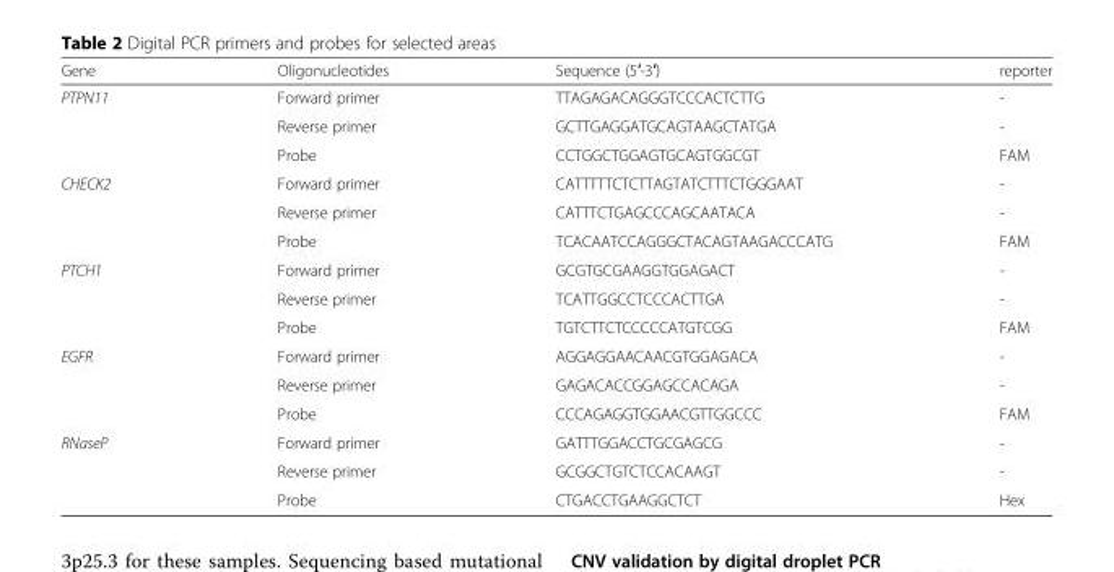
<table><thead><tr><td>Gene</td><td>Oligonucleotides</td><td>Sequence (5′-3′)</td><td>reporter</td></tr></thead><tbody><tr><td rowspan="3">PTPN11</td><td>Forward primer</td><td>TTAGAGACAGGGTCCCACTCTTG</td><td>-</td></tr><tr><td>Reverse primer</td><td>GCTTGAGGATGCAGTAAGCTATGA</td><td>-</td></tr><tr><td>Probe</td><td>CCTGGCTGGAGTGCAGTGGCGT</td><td>FAM</td></tr><tr><td rowspan="3">CHECK2</td><td>Forward primer</td><td>CATTTTTCTCTTAGTATCTTTCTGGGAAT</td><td>-</td></tr><tr><td>Reverse primer</td><td>CATTTCTGAGCCCAGCAATACA</td><td>-</td></tr><tr><td>Probe</td><td>TCACAATCCAGGGCTACAGTAAGACCCATG</td><td>FAM</td></tr><tr><td rowspan="3">PTCH1</td><td>Forward primer</td><td>GCGTGCGAAGGTGGAGACT</td><td>-</td></tr><tr><td>Reverse primer</td><td>TCATTGGCCTCCCACTTGA</td><td>-</td></tr><tr><td>Probe</td><td>TGTCTTCTCCCCCATGTCGG</td><td>FAM</td></tr><tr><td rowspan="3">EGFR</td><td>Forward primer</td><td>AGGAGGAACAACGTGGAGACA</td><td>-</td></tr><tr><td>Reverse primer</td><td>GAGACACCGGAGCCACAGA</td><td>-</td></tr><tr><td>Probe</td><td>CCCAGAGGTGGAACGTTGGCCC</td><td>FAM</td></tr><tr><td rowspan="3">RNaseP</td><td>Forward primer</td><td>GATTTGGACCTGCGAGCG</td><td>-</td></tr><tr><td>Reverse primer</td><td>GCGGCTGTCTCCACAAGT</td><td>-</td></tr><tr><td>Probe</td><td>CTGACCTGAAGGCTCT</td><td>Hex</td></tr></tbody></table>